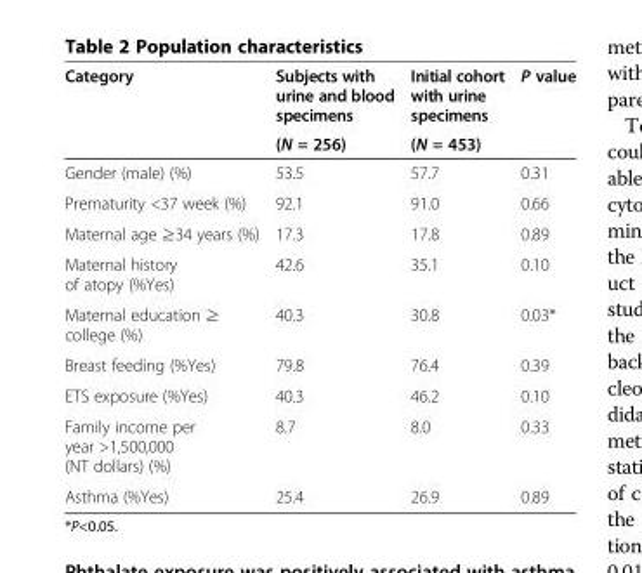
<table><thead><tr><td rowspan="2">Category</td><td rowspan="2">Subjects with urine and blood specimens (N = 256)</td><td rowspan="2">Initial cohort with urine specimens (N = 453)</td><td rowspan="2">P value</td></tr><tr></tr></thead><tbody><tr><td>Gender (male) (%)</td><td>53.5</td><td>57.7</td><td>0.31</td></tr><tr><td>Prematurity &lt;37 week (%)</td><td>92.1</td><td>91.0</td><td>0.66</td></tr><tr><td>Maternal age ≥34 years (%)</td><td>17.3</td><td>17.8</td><td>0.89</td></tr><tr><td>Maternal history of atopy (%Yes)</td><td>42.6</td><td>35.1</td><td>0.10</td></tr><tr><td>Maternal education ≥ college (%)</td><td>40.3</td><td>30.8</td><td>0.03*</td></tr><tr><td>Breast feeding (%Yes)</td><td>79.8</td><td>76.4</td><td>0.39</td></tr><tr><td>ETS exposure (%Yes)</td><td>40.3</td><td>46.2</td><td>0.10</td></tr><tr><td>Family income per year &gt;1,500,000 (NT dollars) (%)</td><td>8.7</td><td>8.0</td><td>0.33</td></tr><tr><td>Asthma (%Yes)</td><td>25.4</td><td>26.9</td><td>0.89</td></tr></tbody></table>